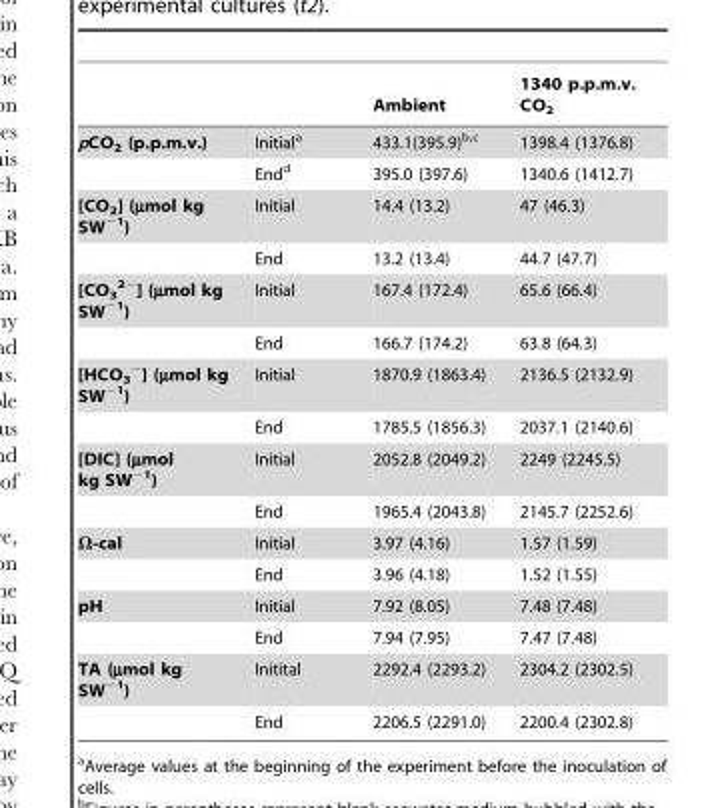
<table><thead><tr><td></td><td></td><td>Ambient</td><td>1340 p.p.m.v. CO<sub>2</sub></td></tr></thead><tbody><tr><td rowspan="2">pCO<sub>2</sub> (p.p.m.v.)</td><td>Initial<sup>a</sup></td><td>433.1(395.9)<sup>b,</sup>c</td><td>1398.4 (1376.8)</td></tr><tr><td>End<sup>d</sup></td><td>395.0 (397.6)</td><td>1340.6 (1412.7)</td></tr><tr><td rowspan="2">[CO<sub>2</sub>] (µmol kg SW<sup>−1</sup>)</td><td>Initial</td><td>14.4 (13.2)</td><td>47 (46.3)</td></tr><tr><td>End</td><td>13.2 (13.4)</td><td>44.7 (47.7)</td></tr><tr><td rowspan="2">[CO<sub>3</sub> <sup>2−</sup>] (µmol kg SW<sup>−1</sup>)</td><td>Initial</td><td>167.4 (172.4)</td><td>65.6 (66.4)</td></tr><tr><td>End</td><td>166.7 (174.2)</td><td>63.8 (64.3)</td></tr><tr><td rowspan="2">[HCO<sub>3</sub> <sup>−</sup>] (µmol kg SW<sup>−1</sup>)</td><td>Initial</td><td>1870.9 (1863.4)</td><td>2136.5 (2132.9)</td></tr><tr><td>End</td><td>1785.5 (1856.3)</td><td>2037.1 (2140.6)</td></tr><tr><td rowspan="2">[DIC] (µmol kg SW<sup>−1</sup>)</td><td>Initial</td><td>2052.8 (2049.2)</td><td>2249 (2245.5)</td></tr><tr><td>End</td><td>1965.4 (2043.8)</td><td>2145.7 (2252.6)</td></tr><tr><td rowspan="2">Ω-cal</td><td>Initial</td><td>3.97 (4.16)</td><td>1.57 (1.59)</td></tr><tr><td>End</td><td>3.96 (4.18)</td><td>1.52 (1.55)</td></tr><tr><td rowspan="2">pH</td><td>Initial</td><td>7.92 (8.05)</td><td>7.48 (7.48)</td></tr><tr><td>End</td><td>7.94 (7.95)</td><td>7.47 (7.48)</td></tr><tr><td rowspan="2">TA (µmol kg SW<sup>−1</sup>)</td><td>Initital</td><td>2292.4 (2293.2)</td><td>2304.2 (2302.5)</td></tr><tr><td>End</td><td>2206.5 (2291.0)</td><td>2200.4 (2302.8)</td></tr></tbody></table>